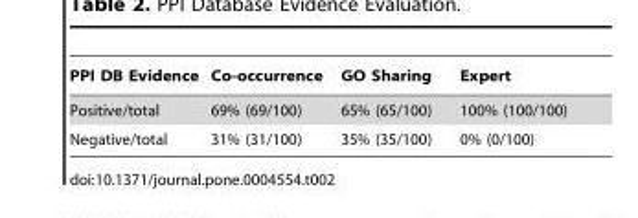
<table><thead><tr><td>PPI DB Evidence</td><td>Co-occurrence</td><td>GO Sharing</td><td>Expert</td></tr></thead><tbody><tr><td>Positive/total</td><td>69% (69/100)</td><td>65% (65/100)</td><td>100% (100/100)</td></tr><tr><td>Negative/total</td><td>31% (31/100)</td><td>35% (35/100)</td><td>0% (0/100)</td></tr></tbody></table>